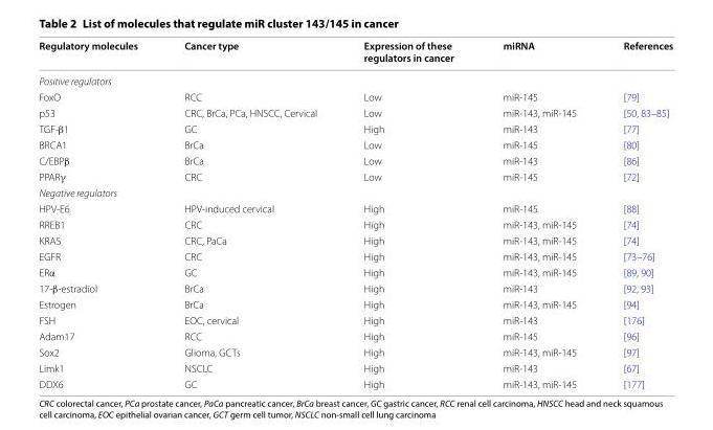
<table><thead><tr><td>Regulatory molecules</td><td>Cancer type</td><td>Expression of these regulators in cancer</td><td>miRNA</td><td>References</td></tr></thead><tbody><tr><td colspan="5">Positive regulators</td></tr><tr><td>FoxO</td><td>RCC</td><td>Low</td><td>miR-145</td><td>[79]</td></tr><tr><td>p53</td><td>CRC, BrCa, PCa, HNSCC, Cervical</td><td>Low</td><td>miR-143, miR-145</td><td>[50, 83–85]</td></tr><tr><td>TGF-β1</td><td>GC</td><td>High</td><td>miR-143</td><td>[77]</td></tr><tr><td>BRCA1</td><td>BrCa</td><td>Low</td><td>miR-145</td><td>[80]</td></tr><tr><td>C/EBPβ</td><td>BrCa</td><td>Low</td><td>miR-143</td><td>[86]</td></tr><tr><td>PPARγ</td><td>CRC</td><td>Low</td><td>miR-145</td><td>[72]</td></tr><tr><td colspan="5">Negative regulators</td></tr><tr><td>HPV-E6</td><td>HPV-induced cervical</td><td>High</td><td>miR-145</td><td>[88]</td></tr><tr><td>RREB1</td><td>CRC</td><td>High</td><td>miR-143, miR-145</td><td>[74]</td></tr><tr><td>KRAS</td><td>CRC, PaCa</td><td>High</td><td>miR-143, miR-145</td><td>[74]</td></tr><tr><td>EGFR</td><td>CRC</td><td>High</td><td>miR-143, miR-145</td><td>[73–76]</td></tr><tr><td>ERα</td><td>GC</td><td>High</td><td>miR-143, miR-145</td><td>[89, 90]</td></tr><tr><td>17-β-estradiol</td><td>BrCa</td><td>High</td><td>miR-143</td><td>[92, 93]</td></tr><tr><td>Estrogen</td><td>BrCa</td><td>High</td><td>miR-143, miR-145</td><td>[94]</td></tr><tr><td>FSH</td><td>EOC, cervical</td><td>High</td><td>miR-143</td><td>[176]</td></tr><tr><td>Adam17</td><td>RCC</td><td>High</td><td>miR-145</td><td>[96]</td></tr><tr><td>Sox2</td><td>Glioma, GCTs</td><td>High</td><td>miR-143, miR-145</td><td>[97]</td></tr><tr><td>Limk1</td><td>NSCLC</td><td>High</td><td>miR-143</td><td>[67]</td></tr><tr><td>DDX6</td><td>GC</td><td>High</td><td>miR-143, miR-145</td><td>[177]</td></tr></tbody></table>